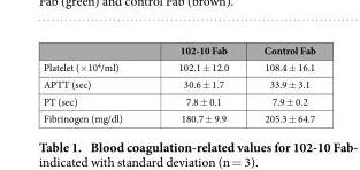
<table><thead><tr><td></td><td>102-10 Fab</td><td>Control Fab</td></tr></thead><tbody><tr><td>Platelet (× 10<sup>4</sup>/ml)</td><td>102.1 ± 12.0</td><td>108.4 ± 16.1</td></tr><tr><td>APTT (sec)</td><td>30.6 ± 1.7</td><td>33.9 ± 3.1</td></tr><tr><td>PT (sec)</td><td>7.8 ± 0.1</td><td>7.9 ± 0.2</td></tr><tr><td>Fibrinogen (mg/dl)</td><td>180.7 ± 9.9</td><td>205.3 ± 64.7</td></tr></tbody></table>